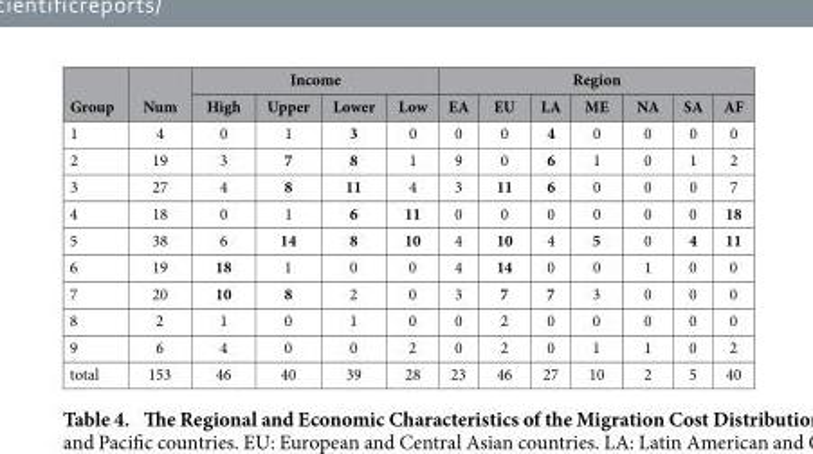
<table><thead><tr><td rowspan="2">Group</td><td rowspan="2">Num</td><td colspan="4">Income</td><td colspan="7">Region</td></tr><tr><td>High</td><td>Upper</td><td>Lower</td><td>Low</td><td>EA</td><td>EU</td><td>LA</td><td>ME</td><td>NA</td><td>SA</td><td>AF</td></tr></thead><tbody><tr><td>1</td><td>4</td><td>0</td><td>1</td><td>3</td><td>0</td><td>0</td><td>0</td><td>4</td><td>0</td><td>0</td><td>0</td><td>0</td></tr><tr><td>2</td><td>19</td><td>3</td><td>7</td><td>8</td><td>1</td><td>9</td><td>0</td><td>6</td><td>1</td><td>0</td><td>1</td><td>2</td></tr><tr><td>3</td><td>27</td><td>4</td><td>8</td><td>11</td><td>4</td><td>3</td><td>11</td><td>6</td><td>0</td><td>0</td><td>0</td><td>7</td></tr><tr><td>4</td><td>18</td><td>0</td><td>1</td><td>6</td><td>11</td><td>0</td><td>0</td><td>0</td><td>0</td><td>0</td><td>0</td><td>18</td></tr><tr><td>5</td><td>38</td><td>6</td><td>14</td><td>8</td><td>10</td><td>4</td><td>10</td><td>4</td><td>5</td><td>0</td><td>4</td><td>11</td></tr><tr><td>6</td><td>19</td><td>18</td><td>1</td><td>0</td><td>0</td><td>4</td><td>14</td><td>0</td><td>0</td><td>1</td><td>0</td><td>0</td></tr><tr><td>7</td><td>20</td><td>10</td><td>8</td><td>2</td><td>0</td><td>3</td><td>7</td><td>7</td><td>3</td><td>0</td><td>0</td><td>0</td></tr><tr><td>8</td><td>2</td><td>1</td><td>0</td><td>1</td><td>0</td><td>0</td><td>2</td><td>0</td><td>0</td><td>0</td><td>0</td><td>0</td></tr><tr><td>9</td><td>6</td><td>4</td><td>0</td><td>0</td><td>2</td><td>0</td><td>2</td><td>0</td><td>1</td><td>1</td><td>0</td><td>2</td></tr><tr><td>total</td><td>153</td><td>46</td><td>40</td><td>39</td><td>28</td><td>23</td><td>46</td><td>27</td><td>10</td><td>2</td><td>5</td><td>40</td></tr></tbody></table>